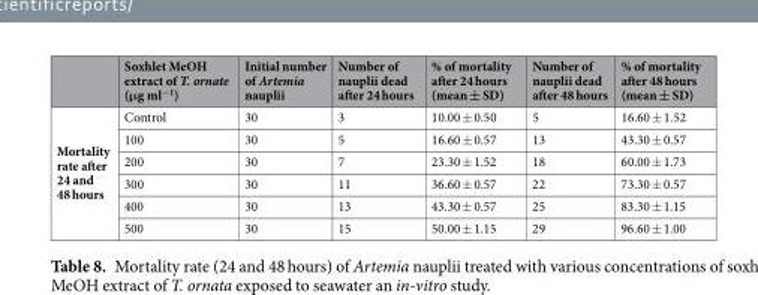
<table><thead><tr><td></td><td>Soxhlet MeOH extract of T. ornate (μg ml<sup>−1</sup>)</td><td>Initial number of Artemia nauplii</td><td>Number of nauplii dead after 24 hours</td><td>% of mortality after 24 hours (mean ± SD)</td><td>Number of nauplii dead after 48 hours</td><td>% of mortality after 48 hours (mean ± SD)</td></tr></thead><tbody><tr><td rowspan="6">Mortality rate after 24 and 48 hours</td><td>Control</td><td>30</td><td>3</td><td>10.00 ± 0.50</td><td>5</td><td>16.60 ± 1.52</td></tr><tr><td>100</td><td>30</td><td>5</td><td>16.60 ± 0.57</td><td>13</td><td>43.30 ± 0.57</td></tr><tr><td>200</td><td>30</td><td>7</td><td>23.30 ± 1.52</td><td>18</td><td>60.00 ± 1.73</td></tr><tr><td>300</td><td>30</td><td>11</td><td>36.60 ± 0.57</td><td>22</td><td>73.30 ± 0.57</td></tr><tr><td>400</td><td>30</td><td>13</td><td>43.30 ± 0.57</td><td>25</td><td>83.30 ± 1.15</td></tr><tr><td>500</td><td>30</td><td>15</td><td>50.00 ± 1.15</td><td>29</td><td>96.60 ± 1.00</td></tr></tbody></table>